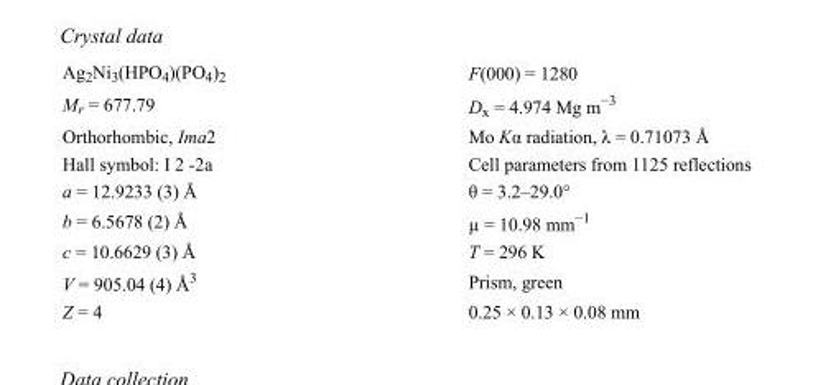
<table><tbody><tr><td>Ag<sub>2</sub>Ni<sub>3</sub>(HPO<sub>4</sub>)(PO<sub>4</sub>)<sub>2</sub></td><td>F(000) = 1280</td></tr><tr><td>M<sub>r</sub> = 677.79</td><td>D<sub>x</sub> = 4.974 Mg m<sup>−3</sup></td></tr><tr><td>Orthorhombic, Ima2</td><td>Mo Kα radiation, λ = 0.71073 Å</td></tr><tr><td>Hall symbol: I 2 -2a</td><td>Cell parameters from 1125 reflections</td></tr><tr><td>a = 12.9233 (3) Å</td><td>θ = 3.2–29.0°</td></tr><tr><td>b = 6.5678 (2) Å</td><td>µ = 10.98 mm<sup>−1</sup></td></tr><tr><td>c = 10.6629 (3) Å</td><td>T = 296 K</td></tr><tr><td>V = 905.04 (4) Å<sup>3</sup></td><td>Prism, green</td></tr><tr><td>Z = 4</td><td>0.25 × 0.13 × 0.08 mm</td></tr></tbody></table>